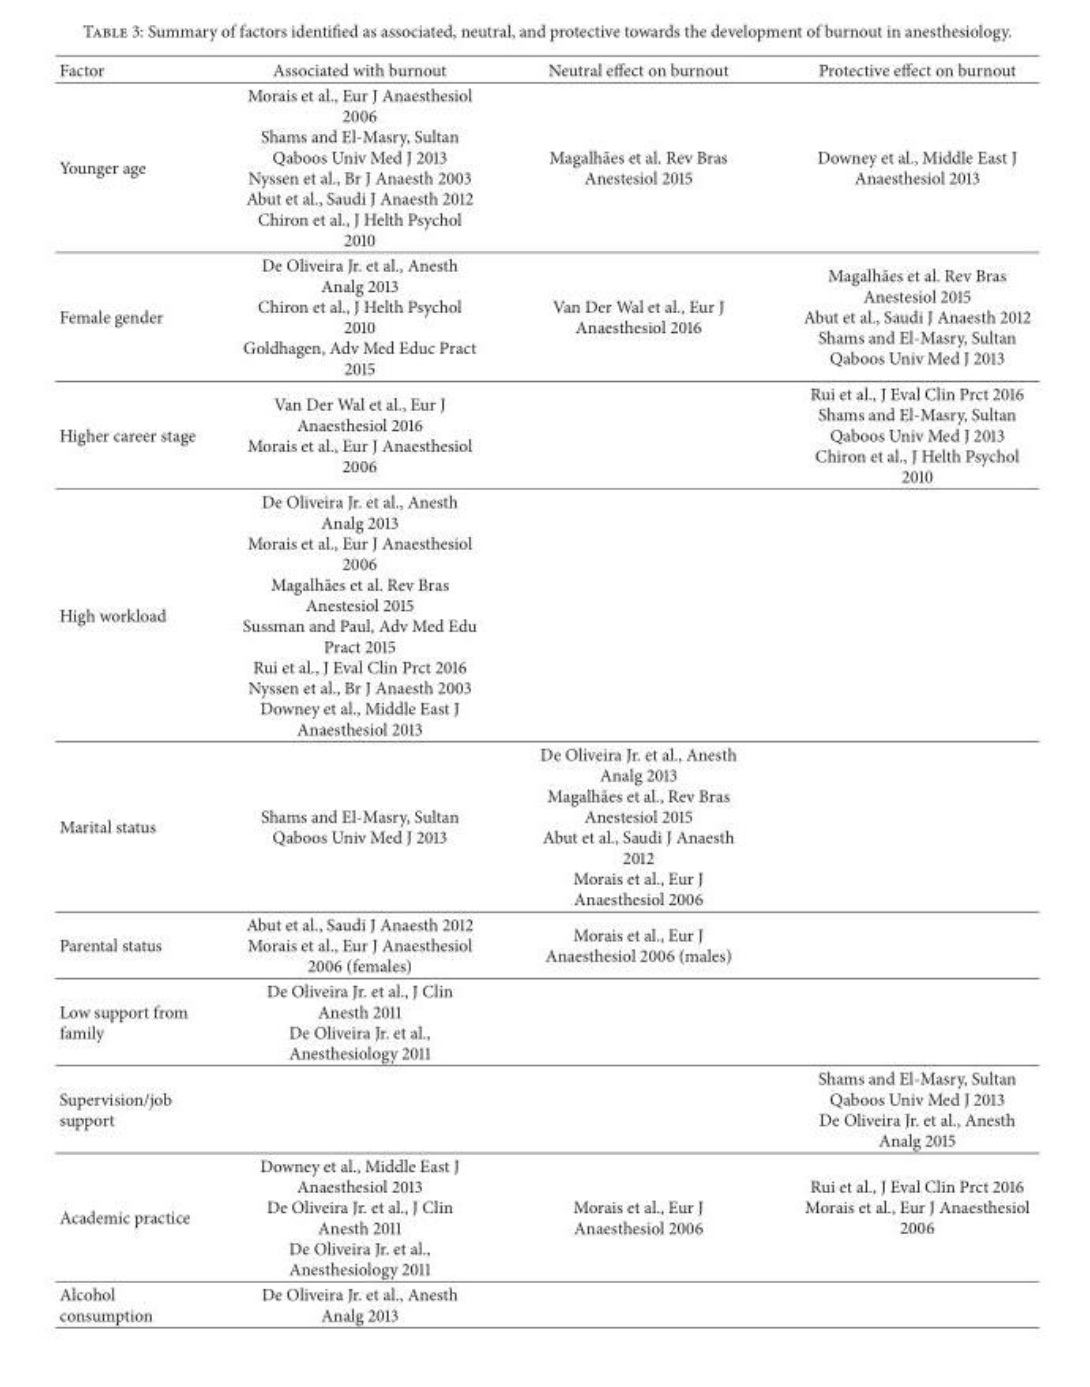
<table><thead><tr><td>Factor</td><td>Associated with burnout</td><td>Neutral effect on burnout</td><td>Protective effect on burnout</td></tr></thead><tbody><tr><td>Younger age</td><td>Morais et al., Eur J Anaesthesiol 2006 Shams and El-Masry, Sultan Qaboos Univ Med J 2013 Nyssen et al., Br J Anaesth 2003 Abut et al., Saudi J Anaesth 2012 Chiron et al., J Helth Psychol 2010</td><td>Magalh˜aes et al. Rev Bras Anestesiol 2015</td><td>Downey et al., Middle East J Anaesthesiol 2013</td></tr><tr><td>Female gender</td><td>De Oliveira Jr. et al., Anesth Analg 2013 Chiron et al., J Helth Psychol 2010 Goldhagen, Adv Med Educ Pract 2015</td><td>Van Der Wal et al., Eur J Anaesthesiol 2016</td><td>Magalh˜aes et al. Rev Bras Anestesiol 2015 Abut et al., Saudi J Anaesth 2012 Shams and El-Masry, Sultan Qaboos Univ Med J 2013</td></tr><tr><td>Higher career stage</td><td>Van Der Wal et al., Eur J Anaesthesiol 2016 Morais et al., Eur J Anaesthesiol 2006</td><td></td><td>Rui et al., J Eval Clin Prct 2016 Shams and El-Masry, Sultan Qaboos Univ Med J 2013 Chiron et al., J Helth Psychol 2010</td></tr><tr><td>High workload</td><td>De Oliveira Jr. et al., Anesth Analg 2013 Morais et al., Eur J Anaesthesiol 2006 Magalh˜aes et al. Rev Bras Anestesiol 2015 Sussman and Paul, Adv Med Edu Pract 2015 Rui et al., J Eval Clin Prct 2016 Nyssen et al., Br J Anaesth 2003 Downey et al., Middle East J Anaesthesiol 2013</td><td></td><td></td></tr><tr><td>Marital status</td><td>Shams and El-Masry, Sultan Qaboos Univ Med J 2013</td><td>De Oliveira Jr. et al., Anesth Analg 2013 Magalh˜aes et al., Rev Bras Anestesiol 2015 Abut et al., Saudi J Anaesth 2012 Morais et al., Eur J Anaesthesiol 2006</td><td></td></tr><tr><td>Parental status</td><td>Abut et al., Saudi J Anaesth 2012 Morais et al., Eur J Anaesthesiol 2006 (females)</td><td>Morais et al., Eur J Anaesthesiol 2006 (males)</td><td></td></tr><tr><td>Low support from family</td><td>De Oliveira Jr. et al., J Clin Anesth 2011 De Oliveira Jr. et al., Anesthesiology 2011</td><td></td><td></td></tr><tr><td>Supervision/job support</td><td></td><td></td><td>Shams and El-Masry, Sultan Qaboos Univ Med J 2013 De Oliveira Jr. et al., Anesth Analg 2015</td></tr><tr><td>Academic practice</td><td>Downey et al., Middle East J Anaesthesiol 2013 De Oliveira Jr. et al., J Clin Anesth 2011 De Oliveira Jr. et al., Anesthesiology 2011</td><td>Morais et al., Eur J Anaesthesiol 2006</td><td>Rui et al., J Eval Clin Prct 2016 Morais et al., Eur J Anaesthesiol 2006</td></tr><tr><td>Alcohol consumption</td><td>De Oliveira Jr. et al., Anesth Analg 2013</td><td></td><td></td></tr></tbody></table>